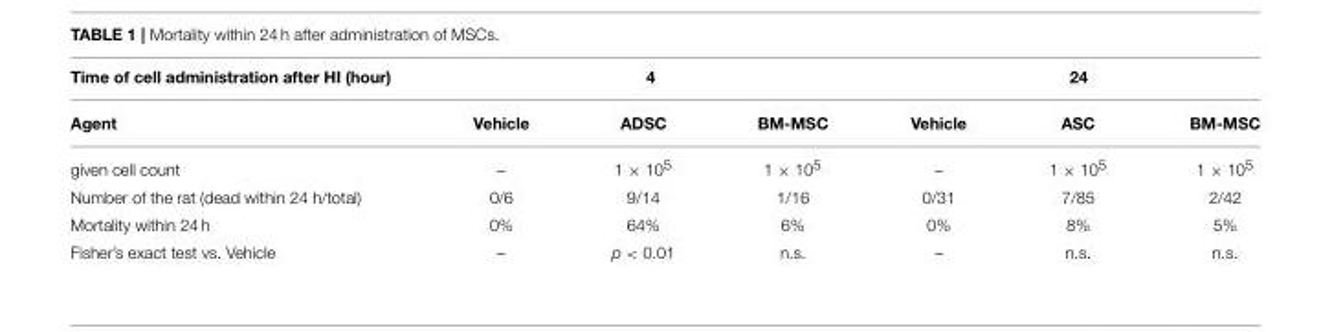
<table><thead><tr><td rowspan="2">Time of cell administration after HI (hour) Agent</td><td colspan="3">4</td><td colspan="3">24</td></tr><tr><td>Vehicle</td><td>ADSC</td><td>BM-MSC</td><td>Vehicle</td><td>ASC</td><td>BM-MSC</td></tr></thead><tbody><tr><td>given cell count</td><td>–</td><td>1 × 10<sup>5</sup></td><td>1 × 10<sup>5</sup></td><td>–</td><td>1 × 10<sup>5</sup></td><td>1 × 10<sup>5</sup></td></tr><tr><td>Number of the rat (dead within 24 h/total)</td><td>0/6</td><td>9/14</td><td>1/16</td><td>0/31</td><td>7/85</td><td>2/42</td></tr><tr><td>Mortality within 24 h</td><td>0%</td><td>64%</td><td>6%</td><td>0%</td><td>8%</td><td>5%</td></tr><tr><td>Fisher’s exact test vs. Vehicle</td><td>–</td><td>p &lt; 0.01</td><td>n.s.</td><td>–</td><td>n.s.</td><td>n.s.</td></tr></tbody></table>